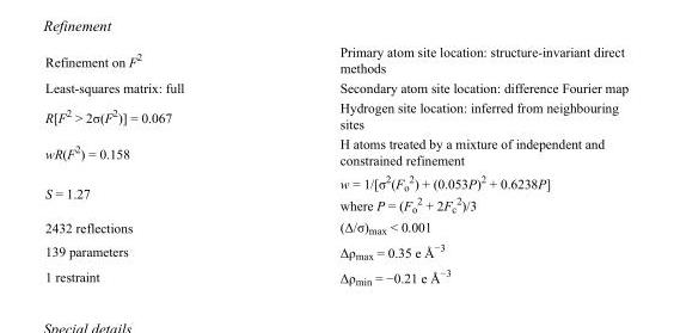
<table><tbody><tr><td>Refinement on F<sup>2</sup></td><td>Primary atom site location: structure-invariant direct methods</td></tr><tr><td>Least-squares matrix: full</td><td>Secondary atom site location: difference Fourier map</td></tr><tr><td>R[F<sup>2</sup> &gt; 2σ(F<sup>2</sup>)] = 0.067</td><td>Hydrogen site location: inferred from neighbouring sites</td></tr><tr><td>wR(F<sup>2</sup>) = 0.158</td><td>H atoms treated by a mixture of independent and constrained refinement</td></tr><tr><td>S = 1.27</td><td>w = 1/[σ<sup>2</sup>(F<sub>o</sub> <sup>2</sup>) + (0.053P)<sup>2</sup> + 0.6238P] where P = (F<sub>o</sub> <sup>2</sup> + 2F<sub>c</sub> <sup>2</sup>)/3</td></tr><tr><td>2432 reflections</td><td>(Δ/σ)<sub>max</sub> &lt; 0.001</td></tr><tr><td>139 parameters</td><td>Δρ<sub>max</sub> = 0.35 e Å<sup>−3</sup></td></tr><tr><td>1 restraint</td><td>Δρ<sub>min</sub> = −0.21 e Å<sup>−3</sup></td></tr></tbody></table>